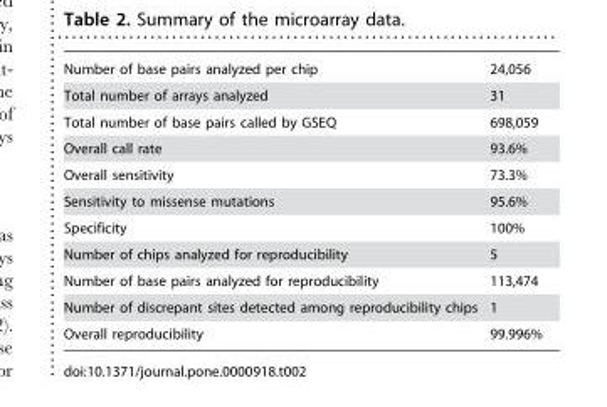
<table><tbody><tr><td>Number of base pairs analyzed per chip</td><td>24,056</td></tr><tr><td>Total number of arrays analyzed</td><td>31</td></tr><tr><td>Total number of base pairs called by GSEQ</td><td>698,059</td></tr><tr><td>Overall call rate</td><td>93.6%</td></tr><tr><td>Overall sensitivity</td><td>73.3%</td></tr><tr><td>Sensitivity to missense mutations</td><td>95.6%</td></tr><tr><td>Specificity</td><td>100%</td></tr><tr><td>Number of chips analyzed for reproducibility</td><td>5</td></tr><tr><td>Number of base pairs analyzed for reproducibility</td><td>113,474</td></tr><tr><td>Number of discrepant sites detected among reproducibility chips</td><td>1</td></tr><tr><td>Overall reproducibility</td><td>99.996%</td></tr></tbody></table>